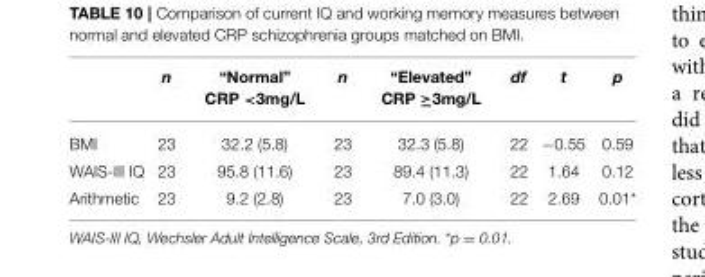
<table><thead><tr><td></td><td>n</td><td>“Normal” CRP &lt;3mg/L</td><td>n</td><td>“Elevated” CRP ≥3mg/L</td><td>df</td><td>t</td><td>p</td></tr></thead><tbody><tr><td>BMI</td><td>23</td><td>32.2 (5.8)</td><td>23</td><td>32.3 (5.8)</td><td>22</td><td>−0.55</td><td>0.59</td></tr><tr><td>WAIS-III IQ</td><td>23</td><td>95.8 (11.6)</td><td>23</td><td>89.4 (11.3)</td><td>22</td><td>1.64</td><td>0.12</td></tr><tr><td>Arithmetic</td><td>23</td><td>9.2 (2.8)</td><td>23</td><td>7.0 (3.0)</td><td>22</td><td>2.69</td><td>0.01*</td></tr></tbody></table>